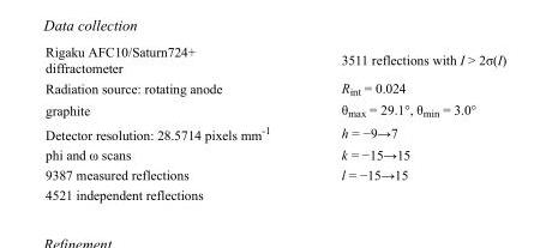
<table><tbody><tr><td>Rigaku AFC10/Saturn724+ diffractometer</td><td>3511 reflections with I &gt; 2σ(I)</td></tr><tr><td>Radiation source: rotating anode</td><td>R<sub>int</sub> = 0.024</td></tr><tr><td>graphite</td><td>θ<sub>max</sub> = 29.1°, θ<sub>min</sub> = 3.0°</td></tr><tr><td>Detector resolution: 28.5714 pixels mm<sup>-1</sup></td><td>h = −9→7</td></tr><tr><td>phi and ω scans</td><td>k = −15→15</td></tr><tr><td>9387 measured reflections</td><td>l = −15→15</td></tr><tr><td>4521 independent reflections</td><td></td></tr></tbody></table>